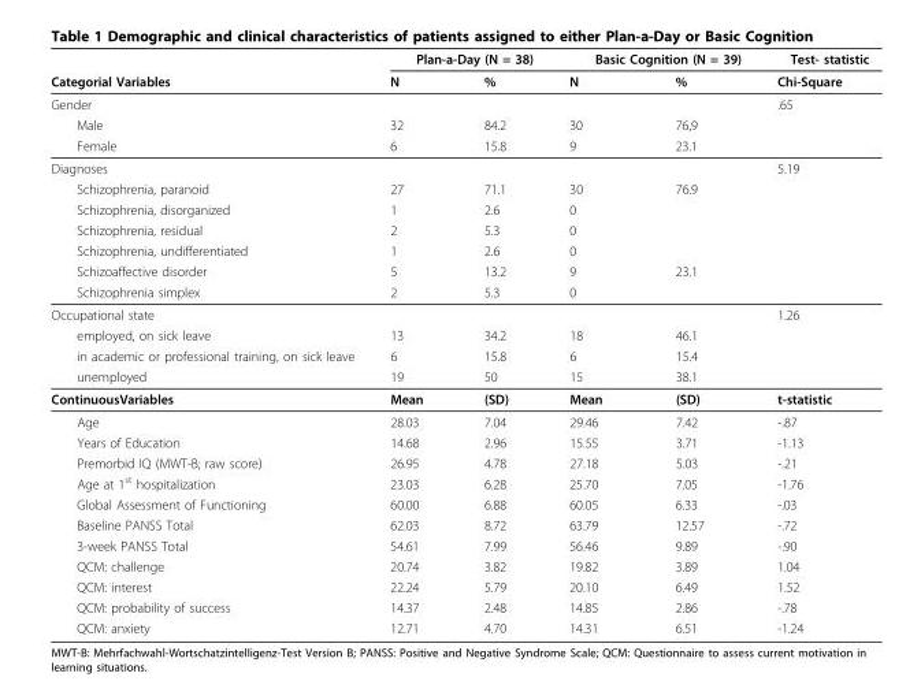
<table><thead><tr><td rowspan="2">Categorial Variables</td><td colspan="2">Plan-a-Day (N = 38)</td><td colspan="2">Basic Cognition (N = 39)</td><td rowspan="2">Test- statistic Chi-Square</td></tr><tr><td>N</td><td>%</td><td>N</td><td>%</td></tr></thead><tbody><tr><td>Gender</td><td></td><td></td><td></td><td></td><td>.65</td></tr><tr><td>Male</td><td>32</td><td>84.2</td><td>30</td><td>76,9</td><td></td></tr><tr><td>Female</td><td>6</td><td>15.8</td><td>9</td><td>23.1</td><td></td></tr><tr><td>Diagnoses</td><td></td><td></td><td></td><td></td><td>5.19</td></tr><tr><td>Schizophrenia, paranoid</td><td>27</td><td>71.1</td><td>30</td><td>76.9</td><td></td></tr><tr><td>Schizophrenia, disorganized</td><td>1</td><td>2.6</td><td>0</td><td></td><td></td></tr><tr><td>Schizophrenia, residual</td><td>2</td><td>5.3</td><td>0</td><td></td><td></td></tr><tr><td>Schizophrenia, undifferentiated</td><td>1</td><td>2.6</td><td>0</td><td></td><td></td></tr><tr><td>Schizoaffective disorder</td><td>5</td><td>13.2</td><td>9</td><td>23.1</td><td></td></tr><tr><td>Schizophrenia simplex</td><td>2</td><td>5.3</td><td>0</td><td></td><td></td></tr><tr><td>Occupational state</td><td></td><td></td><td></td><td></td><td>1.26</td></tr><tr><td>employed, on sick leave</td><td>13</td><td>34.2</td><td>18</td><td>46.1</td><td></td></tr><tr><td>in academic or professional training, on sick leave</td><td>6</td><td>15.8</td><td>6</td><td>15.4</td><td></td></tr><tr><td>unemployed</td><td>19</td><td>50</td><td>15</td><td>38.1</td><td></td></tr><tr><td>ContinuousVariables</td><td>Mean</td><td>(SD)</td><td>Mean</td><td>(SD)</td><td>t-statistic</td></tr><tr><td>Age</td><td>28.03</td><td>7.04</td><td>29.46</td><td>7.42</td><td>-.87</td></tr><tr><td>Years of Education</td><td>14.68</td><td>2.96</td><td>15.55</td><td>3.71</td><td>-1.13</td></tr><tr><td>Premorbid IQ (MWT-B; raw score)</td><td>26.95</td><td>4.78</td><td>27.18</td><td>5.03</td><td>-.21</td></tr><tr><td>Age at 1<sup>st</sup> hospitalization</td><td>23.03</td><td>6.28</td><td>25.70</td><td>7.05</td><td>-1.76</td></tr><tr><td>Global Assessment of Functioning</td><td>60.00</td><td>6.88</td><td>60.05</td><td>6.33</td><td>-.03</td></tr><tr><td>Baseline PANSS Total</td><td>62.03</td><td>8.72</td><td>63.79</td><td>12.57</td><td>-.72</td></tr><tr><td>3-week PANSS Total</td><td>54.61</td><td>7.99</td><td>56.46</td><td>9.89</td><td>-.90</td></tr><tr><td>QCM: challenge</td><td>20.74</td><td>3.82</td><td>19.82</td><td>3.89</td><td>1.04</td></tr><tr><td>QCM: interest</td><td>22.24</td><td>5.79</td><td>20.10</td><td>6.49</td><td>1.52</td></tr><tr><td>QCM: probability of success</td><td>14.37</td><td>2.48</td><td>14.85</td><td>2.86</td><td>-.78</td></tr><tr><td>QCM: anxiety</td><td>12.71</td><td>4.70</td><td>14.31</td><td>6.51</td><td>-1.24</td></tr></tbody></table>